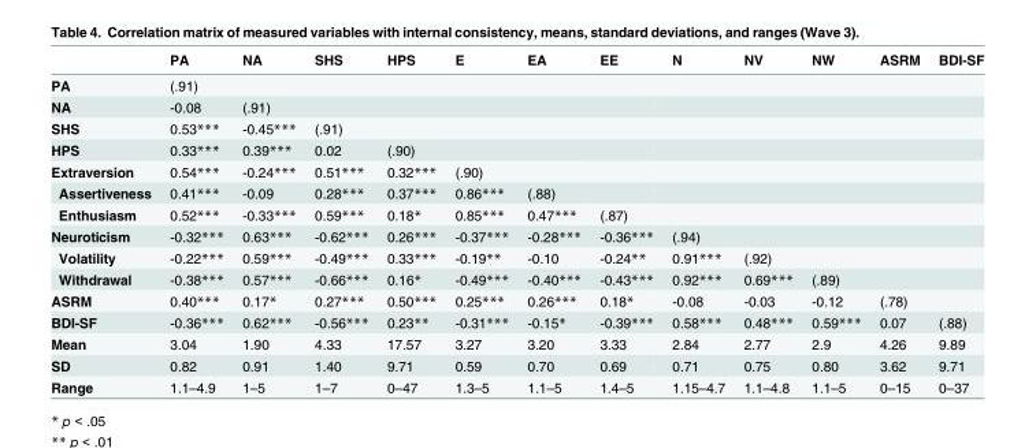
<table><thead><tr><td></td><td>PA</td><td>NA</td><td>SHS</td><td>HPS</td><td>E</td><td>EA</td><td>EE</td><td>N</td><td>NV</td><td>NW</td><td>ASRM</td><td>BDI-SF</td></tr></thead><tbody><tr><td>PA</td><td>(.91)</td><td></td><td></td><td></td><td></td><td></td><td></td><td></td><td></td><td></td><td></td><td></td></tr><tr><td>NA</td><td>-0.08</td><td>(.91)</td><td></td><td></td><td></td><td></td><td></td><td></td><td></td><td></td><td></td><td></td></tr><tr><td>SHS</td><td>0.53***</td><td>-0.45***</td><td>(.91)</td><td></td><td></td><td></td><td></td><td></td><td></td><td></td><td></td><td></td></tr><tr><td>HPS</td><td>0.33***</td><td>0.39***</td><td>0.02</td><td>(.90)</td><td></td><td></td><td></td><td></td><td></td><td></td><td></td><td></td></tr><tr><td>Extraversion</td><td>0.54***</td><td>-0.24***</td><td>0.51***</td><td>0.32***</td><td>(.90)</td><td></td><td></td><td></td><td></td><td></td><td></td><td></td></tr><tr><td>Assertiveness</td><td>0.41***</td><td>-0.09</td><td>0.28***</td><td>0.37***</td><td>0.86***</td><td>(.88)</td><td></td><td></td><td></td><td></td><td></td><td></td></tr><tr><td>Enthusiasm</td><td>0.52***</td><td>-0.33***</td><td>0.59***</td><td>0.18*</td><td>0.85***</td><td>0.47***</td><td>(.87)</td><td></td><td></td><td></td><td></td><td></td></tr><tr><td>Neuroticism</td><td>-0.32***</td><td>0.63***</td><td>-0.62***</td><td>0.26***</td><td>-0.37***</td><td>-0.28***</td><td>-0.36***</td><td>(.94)</td><td></td><td></td><td></td><td></td></tr><tr><td>Volatility</td><td>-0.22***</td><td>0.59***</td><td>-0.49***</td><td>0.33***</td><td>-0.19**</td><td>-0.10</td><td>-0.24**</td><td>0.91***</td><td>(.92)</td><td></td><td></td><td></td></tr><tr><td>Withdrawal</td><td>-0.38***</td><td>0.57***</td><td>-0.66***</td><td>0.16*</td><td>-0.49***</td><td>-0.40***</td><td>-0.43***</td><td>0.92***</td><td>0.69***</td><td>(.89)</td><td></td><td></td></tr><tr><td>ASRM</td><td>0.40***</td><td>0.17*</td><td>0.27***</td><td>0.50***</td><td>0.25***</td><td>0.26***</td><td>0.18*</td><td>-0.08</td><td>-0.03</td><td>-0.12</td><td>(.78)</td><td></td></tr><tr><td>BDI-SF</td><td>-0.36***</td><td>0.62***</td><td>-0.56***</td><td>0.23**</td><td>-0.31***</td><td>-0.15*</td><td>-0.39***</td><td>0.58***</td><td>0.48***</td><td>0.59***</td><td>0.07</td><td>(.88)</td></tr><tr><td>Mean</td><td>3.04</td><td>1.90</td><td>4.33</td><td>17.57</td><td>3.27</td><td>3.20</td><td>3.33</td><td>2.84</td><td>2.77</td><td>2.9</td><td>4.26</td><td>9.89</td></tr><tr><td>SD</td><td>0.82</td><td>0.91</td><td>1.40</td><td>9.71</td><td>0.59</td><td>0.70</td><td>0.69</td><td>0.71</td><td>0.75</td><td>0.80</td><td>3.62</td><td>9.71</td></tr><tr><td>Range</td><td>1.1–4.9</td><td>1–5</td><td>1–7</td><td>0–47</td><td>1.3–5</td><td>1.1–5</td><td>1.4–5</td><td>1.15–4.7</td><td>1.1–4.8</td><td>1.1–5</td><td>0–15</td><td>0–37</td></tr></tbody></table>